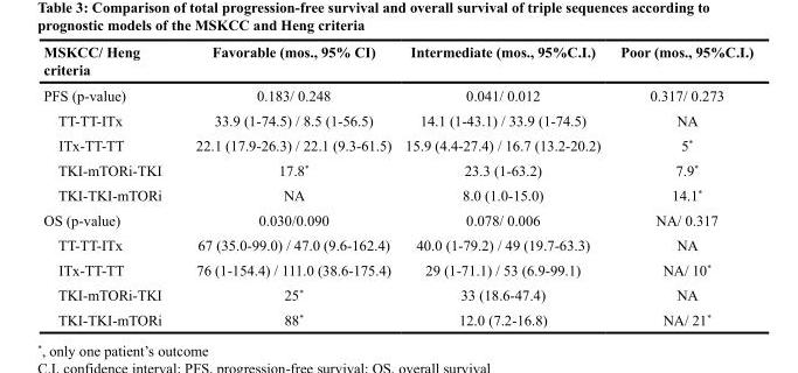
<table><thead><tr><td>MSKCC/ Heng criteria</td><td>Favorable (mos., 95% CI)</td><td>Intermediate (mos., 95%C.I.)</td><td>Poor (mos., 95%C.I.)</td></tr></thead><tbody><tr><td>PFS (p-value)</td><td>0.183/ 0.248</td><td>0.041/ 0.012</td><td>0.317/ 0.273</td></tr><tr><td>TT-TT-ITx</td><td>33.9 (1-74.5) / 8.5 (1-56.5)</td><td>14.1 (1-43.1) / 33.9 (1-74.5)</td><td>NA</td></tr><tr><td>ITx-TT-TT</td><td>22.1 (17.9-26.3) / 22.1 (9.3-61.5)</td><td>15.9 (4.4-27.4) / 16.7 (13.2-20.2)</td><td>5*</td></tr><tr><td>TKI-mTORi-TKI</td><td>17.8*</td><td>23.3 (1-63.2)</td><td>7.9*</td></tr><tr><td>TKI-TKI-mTORi</td><td>NA</td><td>8.0 (1.0-15.0)</td><td>14.1*</td></tr><tr><td>OS (p-value)</td><td>0.030/0.090</td><td>0.078/ 0.006</td><td>NA/ 0.317</td></tr><tr><td>TT-TT-ITx</td><td>67 (35.0-99.0) / 47.0 (9.6-162.4)</td><td>40.0 (1-79.2) / 49 (19.7-63.3)</td><td>NA</td></tr><tr><td>ITx-TT-TT</td><td>76 (1-154.4) / 111.0 (38.6-175.4)</td><td>29 (1-71.1) / 53 (6.9-99.1)</td><td>NA/ 10*</td></tr><tr><td>TKI-mTORi-TKI</td><td>25*</td><td>33 (18.6-47.4)</td><td>NA</td></tr><tr><td>TKI-TKI-mTORi</td><td>88*</td><td>12.0 (7.2-16.8)</td><td>NA/ 21*</td></tr></tbody></table>